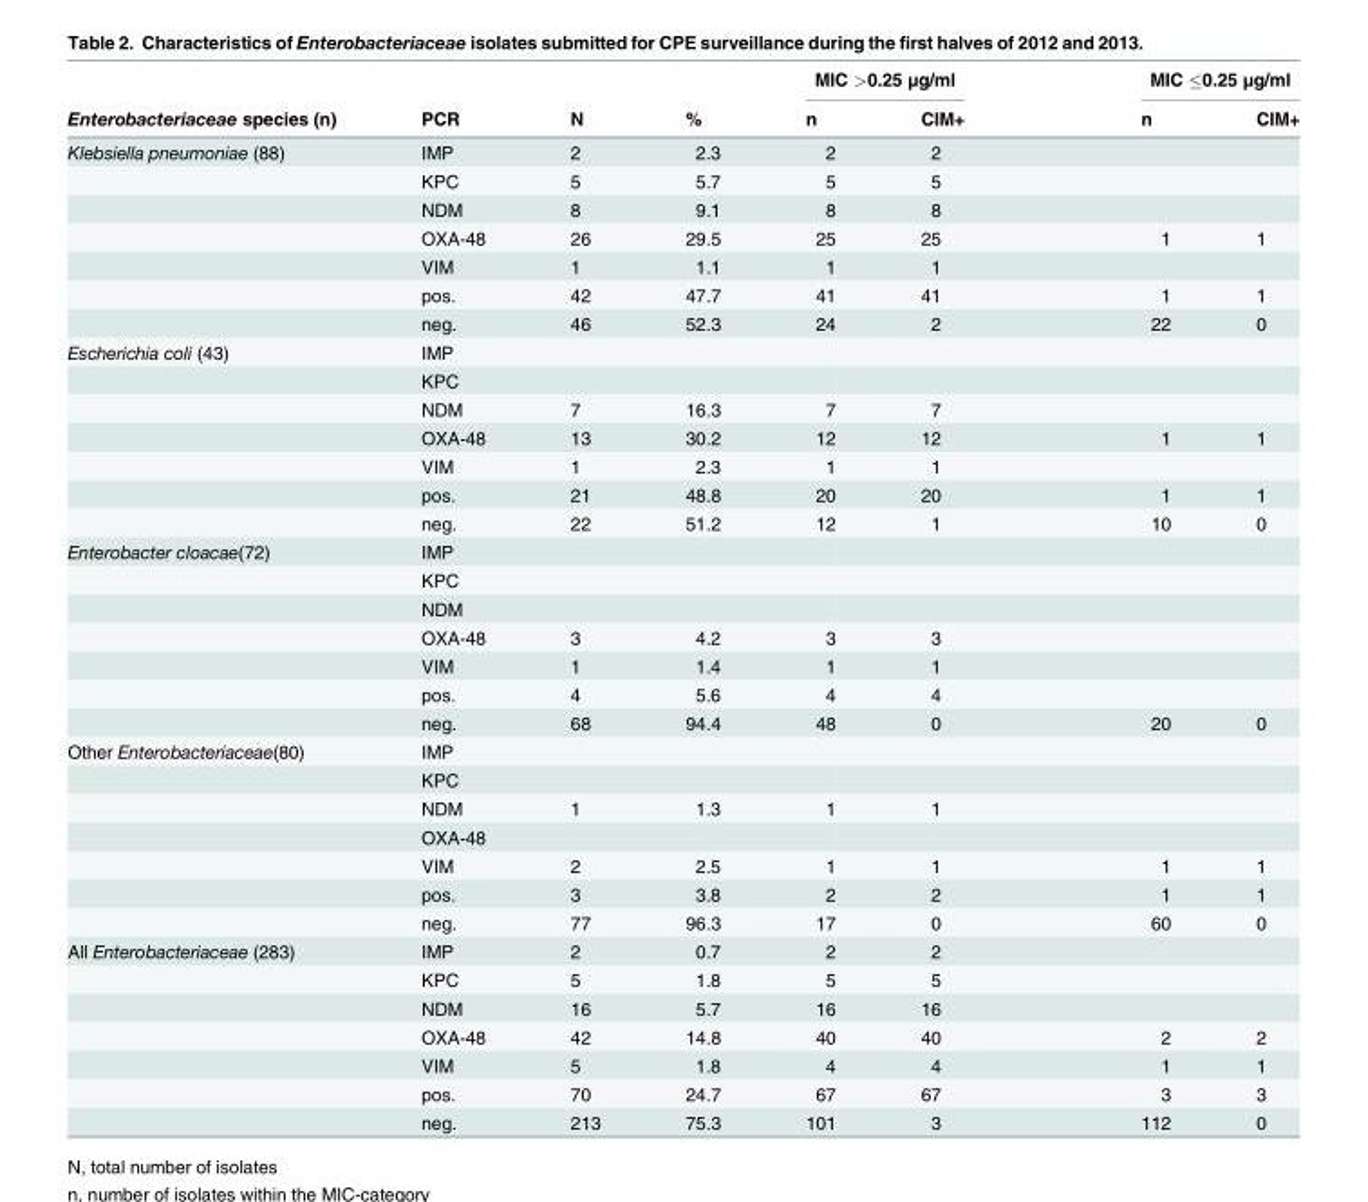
<table><thead><tr><td rowspan="2">Enterobacteriaceae species (n)</td><td rowspan="2">PCR</td><td rowspan="2">N</td><td rowspan="2">%</td><td colspan="2">MIC &gt;0.25 μg/ml</td><td colspan="2">MIC ≤0.25 μg/ml</td></tr><tr><td>n</td><td>CIM+</td><td>n</td><td>CIM+</td></tr></thead><tbody><tr><td rowspan="7">Klebsiella pneumoniae (88)</td><td>IMP</td><td>2</td><td>2.3</td><td>2</td><td>2</td><td></td><td></td></tr><tr><td>KPC</td><td>5</td><td>5.7</td><td>5</td><td>5</td><td></td><td></td></tr><tr><td>NDM</td><td>8</td><td>9.1</td><td>8</td><td>8</td><td></td><td></td></tr><tr><td>OXA-48</td><td>26</td><td>29.5</td><td>25</td><td>25</td><td>1</td><td>1</td></tr><tr><td>VIM</td><td>1</td><td>1.1</td><td>1</td><td>1</td><td></td><td></td></tr><tr><td>pos.</td><td>42</td><td>47.7</td><td>41</td><td>41</td><td>1</td><td>1</td></tr><tr><td>neg.</td><td>46</td><td>52.3</td><td>24</td><td>2</td><td>22</td><td>0</td></tr><tr><td rowspan="7">Escherichia coli (43)</td><td>IMP</td><td></td><td></td><td></td><td></td><td></td><td></td></tr><tr><td>KPC</td><td></td><td></td><td></td><td></td><td></td><td></td></tr><tr><td>NDM</td><td>7</td><td>16.3</td><td>7</td><td>7</td><td></td><td></td></tr><tr><td>OXA-48</td><td>13</td><td>30.2</td><td>12</td><td>12</td><td>1</td><td>1</td></tr><tr><td>VIM</td><td>1</td><td>2.3</td><td>1</td><td>1</td><td></td><td></td></tr><tr><td>pos.</td><td>21</td><td>48.8</td><td>20</td><td>20</td><td>1</td><td>1</td></tr><tr><td>neg.</td><td>22</td><td>51.2</td><td>12</td><td>1</td><td>10</td><td>0</td></tr><tr><td rowspan="7">Enterobacter cloacae(72)</td><td>IMP</td><td></td><td></td><td></td><td></td><td></td><td></td></tr><tr><td>KPC</td><td></td><td></td><td></td><td></td><td></td><td></td></tr><tr><td>NDM</td><td></td><td></td><td></td><td></td><td></td><td></td></tr><tr><td>OXA-48</td><td>3</td><td>4.2</td><td>3</td><td>3</td><td></td><td></td></tr><tr><td>VIM</td><td>1</td><td>1.4</td><td>1</td><td>1</td><td></td><td></td></tr><tr><td>pos.</td><td>4</td><td>5.6</td><td>4</td><td>4</td><td></td><td></td></tr><tr><td>neg.</td><td>68</td><td>94.4</td><td>48</td><td>0</td><td>20</td><td>0</td></tr><tr><td rowspan="7">Other Enterobacteriaceae(80)</td><td>IMP</td><td></td><td></td><td></td><td></td><td></td><td></td></tr><tr><td>KPC</td><td></td><td></td><td></td><td></td><td></td><td></td></tr><tr><td>NDM</td><td>1</td><td>1.3</td><td>1</td><td>1</td><td></td><td></td></tr><tr><td>OXA-48</td><td></td><td></td><td></td><td></td><td></td><td></td></tr><tr><td>VIM</td><td>2</td><td>2.5</td><td>1</td><td>1</td><td>1</td><td>1</td></tr><tr><td>pos.</td><td>3</td><td>3.8</td><td>2</td><td>2</td><td>1</td><td>1</td></tr><tr><td>neg.</td><td>77</td><td>96.3</td><td>17</td><td>0</td><td>60</td><td>0</td></tr><tr><td rowspan="7">All Enterobacteriaceae (283)</td><td>IMP</td><td>2</td><td>0.7</td><td>2</td><td>2</td><td></td><td></td></tr><tr><td>KPC</td><td>5</td><td>1.8</td><td>5</td><td>5</td><td></td><td></td></tr><tr><td>NDM</td><td>16</td><td>5.7</td><td>16</td><td>16</td><td></td><td></td></tr><tr><td>OXA-48</td><td>42</td><td>14.8</td><td>40</td><td>40</td><td>2</td><td>2</td></tr><tr><td>VIM</td><td>5</td><td>1.8</td><td>4</td><td>4</td><td>1</td><td>1</td></tr><tr><td>pos.</td><td>70</td><td>24.7</td><td>67</td><td>67</td><td>3</td><td>3</td></tr><tr><td>neg.</td><td>213</td><td>75.3</td><td>101</td><td>3</td><td>112</td><td>0</td></tr></tbody></table>